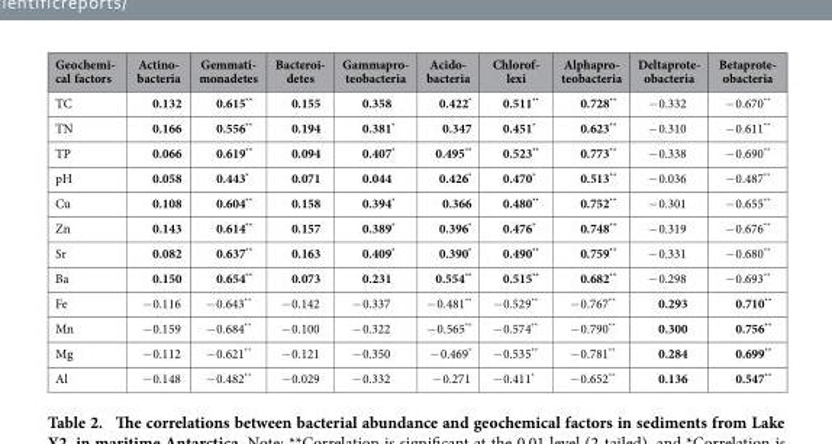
<table><thead><tr><td>Geochemi- cal factors</td><td>Actino- bacteria</td><td>Gemmati- monadetes</td><td>Bacteroi- detes</td><td>Gammapro- teobacteria</td><td>Acido- bacteria</td><td>Chlorof- lexi</td><td>Alphapro- teobacteria</td><td>Deltaprote- obacteria</td><td>Betaprote- obacteria</td></tr></thead><tbody><tr><td>TC</td><td>0.132</td><td>0.615**</td><td>0.155</td><td>0.358</td><td>0.422*</td><td>0.511**</td><td>0.728**</td><td>− 0.332</td><td>− 0.670**</td></tr><tr><td>TN</td><td>0.166</td><td>0.556**</td><td>0.194</td><td>0.381*</td><td>0.347</td><td>0.451*</td><td>0.623**</td><td>− 0.310</td><td>− 0.611**</td></tr><tr><td>TP</td><td>0.066</td><td>0.619**</td><td>0.094</td><td>0.407*</td><td>0.495**</td><td>0.523**</td><td>0.773**</td><td>− 0.338</td><td>− 0.690**</td></tr><tr><td>pH</td><td>0.058</td><td>0.443*</td><td>0.071</td><td>0.044</td><td>0.426*</td><td>0.470*</td><td>0.513**</td><td>− 0.036</td><td>− 0.487**</td></tr><tr><td>Cu</td><td>0.108</td><td>0.604**</td><td>0.158</td><td>0.394*</td><td>0.366</td><td>0.480**</td><td>0.752**</td><td>− 0.301</td><td>− 0.655**</td></tr><tr><td>Zn</td><td>0.143</td><td>0.614**</td><td>0.157</td><td>0.389*</td><td>0.396*</td><td>0.476*</td><td>0.748**</td><td>− 0.319</td><td>− 0.676**</td></tr><tr><td>Sr</td><td>0.082</td><td>0.637**</td><td>0.163</td><td>0.409*</td><td>0.390*</td><td>0.490**</td><td>0.759**</td><td>− 0.331</td><td>− 0.680**</td></tr><tr><td>Ba</td><td>0.150</td><td>0.654**</td><td>0.073</td><td>0.231</td><td>0.554**</td><td>0.515**</td><td>0.682**</td><td>− 0.298</td><td>− 0.693**</td></tr><tr><td>Fe</td><td>− 0.116</td><td>− 0.643**</td><td>− 0.142</td><td>− 0.337</td><td>− 0.481**</td><td>− 0.529**</td><td>− 0.767**</td><td>0.293</td><td>0.710**</td></tr><tr><td>Mn</td><td>− 0.159</td><td>− 0.684**</td><td>− 0.100</td><td>− 0.322</td><td>− 0.565**</td><td>− 0.574**</td><td>− 0.790**</td><td>0.300</td><td>0.756**</td></tr><tr><td>Mg</td><td>− 0.112</td><td>− 0.621**</td><td>− 0.121</td><td>− 0.350</td><td>− 0.469*</td><td>− 0.535**</td><td>− 0.781**</td><td>0.284</td><td>0.699**</td></tr><tr><td>Al</td><td>− 0.148</td><td>− 0.482**</td><td>− 0.029</td><td>− 0.332</td><td>− 0.271</td><td>− 0.411*</td><td>− 0.652**</td><td>0.136</td><td>0.547**</td></tr></tbody></table>